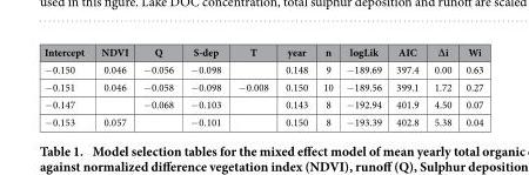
<table><thead><tr><td>Intercept</td><td>NDVI</td><td>Q</td><td>S-dep</td><td>T</td><td>year</td><td>n</td><td>logLik</td><td>AIC</td><td>∆i</td><td>Wi</td></tr></thead><tbody><tr><td>− 0.150</td><td>0.046</td><td>− 0.056</td><td>− 0.098</td><td></td><td>0.148</td><td>9</td><td>− 189.69</td><td>397.4</td><td>0.00</td><td>0.63</td></tr><tr><td>− 0.151</td><td>0.046</td><td>− 0.058</td><td>− 0.098</td><td>− 0.008</td><td>0.150</td><td>10</td><td>− 189.56</td><td>399.1</td><td>1.72</td><td>0.27</td></tr><tr><td>− 0.147</td><td></td><td>− 0.068</td><td>− 0.103</td><td></td><td>0.143</td><td>8</td><td>− 192.94</td><td>401.9</td><td>4.50</td><td>0.07</td></tr><tr><td>− 0.153</td><td>0.057</td><td></td><td>− 0.101</td><td></td><td>0.150</td><td>8</td><td>− 193.39</td><td>402.8</td><td>5.38</td><td>0.04</td></tr></tbody></table>